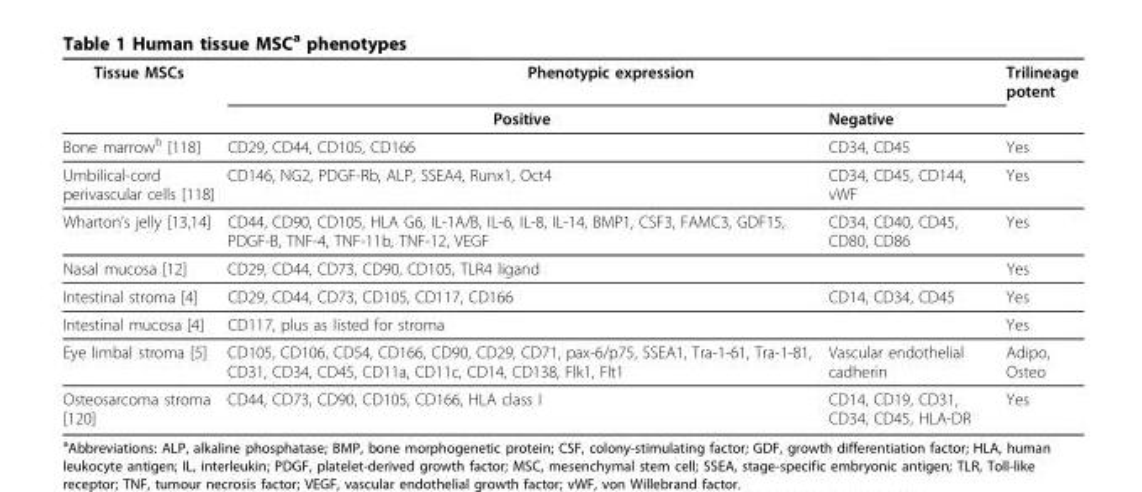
<table><thead><tr><td rowspan="2">Tissue MSCs</td><td colspan="2">Phenotypic expression</td><td rowspan="2">Trilineage potent</td></tr><tr><td>Positive</td><td>Negative</td></tr></thead><tbody><tr><td>Bone marrow<sup>b</sup> [118]</td><td>CD29, CD44, CD105, CD166</td><td>CD34, CD45</td><td>Yes</td></tr><tr><td>Umbilical-cord perivascular cells [118]</td><td>CD146, NG2, PDGF-Rb, ALP, SSEA4, Runx1, Oct4</td><td>CD34, CD45, CD144, vWF</td><td>Yes</td></tr><tr><td>Wharton’s jelly [13,14]</td><td>CD44, CD90, CD105, HLA G6, IL-1A/B, IL-6, IL-8, IL-14, BMP1, CSF3, FAMC3, GDF15, PDGF-B, TNF-4, TNF-11b, TNF-12, VEGF</td><td>CD34, CD40, CD45, CD80, CD86</td><td>Yes</td></tr><tr><td>Nasal mucosa [12]</td><td>CD29, CD44, CD73, CD90, CD105, TLR4 ligand</td><td></td><td>Yes</td></tr><tr><td>Intestinal stroma [4]</td><td>CD29, CD44, CD73, CD105, CD117, CD166</td><td>CD14, CD34, CD45</td><td>Yes</td></tr><tr><td>Intestinal mucosa [4]</td><td>CD117, plus as listed for stroma</td><td></td><td>Yes</td></tr><tr><td>Eye limbal stroma [5]</td><td>CD105, CD106, CD54, CD166, CD90, CD29, CD71, pax-6/p75, SSEA1, Tra-1-61, Tra-1-81, CD31, CD34, CD45, CD11a, CD11c, CD14, CD138, Flk1, Flt1</td><td>Vascular endothelial cadherin</td><td>Adipo, Osteo</td></tr><tr><td>Osteosarcoma stroma [120]</td><td>CD44, CD73, CD90, CD105, CD166, HLA class I</td><td>CD14, CD19, CD31, CD34, CD45, HLA-DR</td><td>Yes</td></tr></tbody></table>